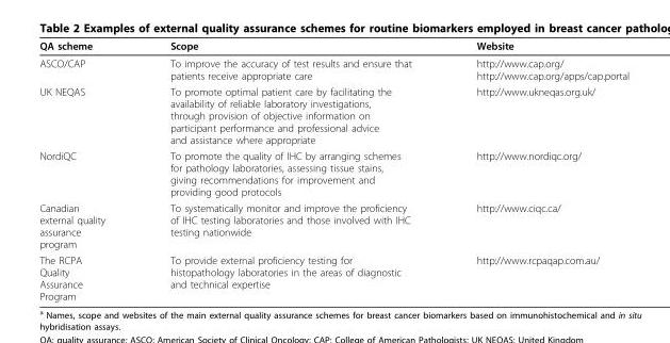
<table><thead><tr><td>QA scheme</td><td>Scope</td><td>Website</td></tr></thead><tbody><tr><td>ASCO/CAP</td><td>To improve the accuracy of test results and ensure that patients receive appropriate care</td><td>http://www.cap.org/ http://www.cap.org/apps/cap.portal</td></tr><tr><td>UK NEQAS</td><td>To promote optimal patient care by facilitating the availability of reliable laboratory investigations, through provision of objective information on participant performance and professional advice and assistance where appropriate</td><td>http://www.ukneqas.org.uk/</td></tr><tr><td>NordiQC</td><td>To promote the quality of IHC by arranging schemes for pathology laboratories, assessing tissue stains, giving recommendations for improvement and providing good protocols</td><td>http://www.nordiqc.org/</td></tr><tr><td>Canadian external quality assurance program</td><td>To systematically monitor and improve the proficiency of IHC testing laboratories and those involved with IHC testing nationwide</td><td>http://www.ciqc.ca/</td></tr><tr><td>The RCPA Quality Assurance Program</td><td>To provide external proficiency testing for histopathology laboratories in the areas of diagnostic and technical expertise</td><td>http://www.rcpaqap.com.au/</td></tr></tbody></table>